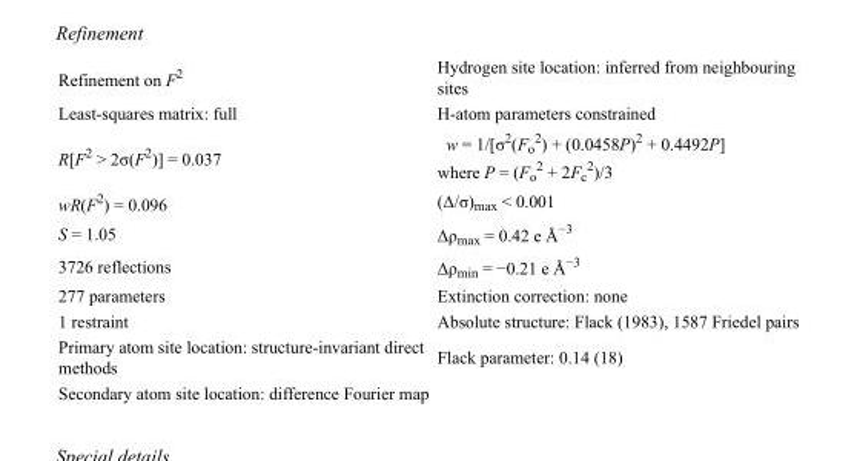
<table><tbody><tr><td>Refinement on F<sup>2</sup></td><td>Hydrogen site location: inferred from neighbouring sites</td></tr><tr><td>Least-squares matrix: full</td><td>H-atom parameters constrained</td></tr><tr><td>R[F<sup>2</sup> &gt; 2σ(F<sup>2</sup>)] = 0.037</td><td>w = 1/[σ<sup>2</sup>(F<sub>o</sub> <sup>2</sup>) + (0.0458P)<sup>2</sup> + 0.4492P] where P = (F<sub>o</sub> <sup>2</sup> + 2F<sub>c</sub> <sup>2</sup>)/3</td></tr><tr><td>wR(F<sup>2</sup>) = 0.096</td><td>(Δ/σ)<sub>max</sub> &lt; 0.001</td></tr><tr><td>S = 1.05</td><td>Δρ<sub>max</sub> = 0.42 e Å<sup>−3</sup></td></tr><tr><td>3726 reflections</td><td>Δρ<sub>min</sub> = −0.21 e Å<sup>−3</sup></td></tr><tr><td>277 parameters</td><td>Extinction correction: none</td></tr><tr><td>1 restraint</td><td>Absolute structure: Flack (1983), 1587 Friedel pairs</td></tr><tr><td>Primary atom site location: structure-invariant direct methods</td><td>Flack parameter: 0.14 (18)</td></tr><tr><td>Secondary atom site location: difference Fourier map</td><td></td></tr></tbody></table>